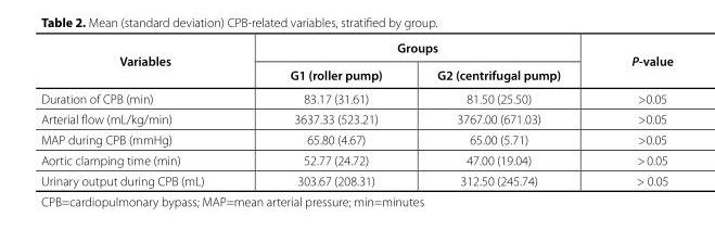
<table><thead><tr><td rowspan="2">Variables</td><td colspan="2">Groups</td><td rowspan="2">P-value</td></tr><tr><td>G1 (roller pump)</td><td>G2 (centrifugal pump)</td></tr></thead><tbody><tr><td>Duration of CPB (min)</td><td>83.17 (31.61)</td><td>81.50 (25.50)</td><td>&gt;0.05</td></tr><tr><td>Arterial flow (mL/kg/min)</td><td>3637.33 (523.21)</td><td>3767.00 (671.03)</td><td>&gt;0.05</td></tr><tr><td>MAP during CPB (mmHg)</td><td>65.80 (4.67)</td><td>65.00 (5.71)</td><td>&gt;0.05</td></tr><tr><td>Aortic clamping time (min)</td><td>52.77 (24.72)</td><td>47.00 (19.04)</td><td>&gt; 0.05</td></tr><tr><td>Urinary output during CPB (mL)</td><td>303.67 (208.31)</td><td>312.50 (245.74)</td><td>&gt; 0.05</td></tr></tbody></table>